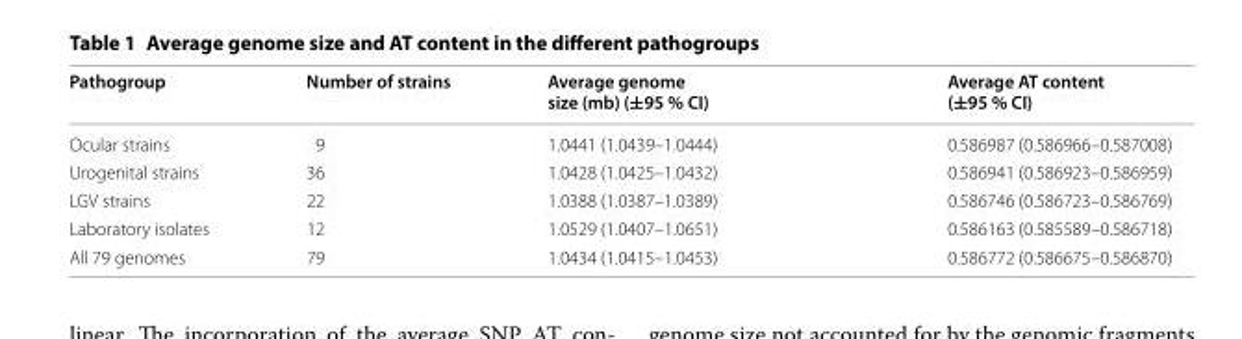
<table><thead><tr><td>Pathogroup</td><td>Number of strains</td><td>Average genome size (mb) (±95 % CI)</td><td>Average AT content (±95 % CI)</td></tr></thead><tbody><tr><td>Ocular strains</td><td>9</td><td>1.0441 (1.0439–1.0444)</td><td>0.586987 (0.586966–0.587008)</td></tr><tr><td>Urogenital strains</td><td>36</td><td>1.0428 (1.0425–1.0432)</td><td>0.586941 (0.586923–0.586959)</td></tr><tr><td>LGV strains</td><td>22</td><td>1.0388 (1.0387–1.0389)</td><td>0.586746 (0.586723–0.586769)</td></tr><tr><td>Laboratory isolates</td><td>12</td><td>1.0529 (1.0407–1.0651)</td><td>0.586163 (0.585589–0.586718)</td></tr><tr><td>All 79 genomes</td><td>79</td><td>1.0434 (1.0415–1.0453)</td><td>0.586772 (0.586675–0.586870)</td></tr></tbody></table>